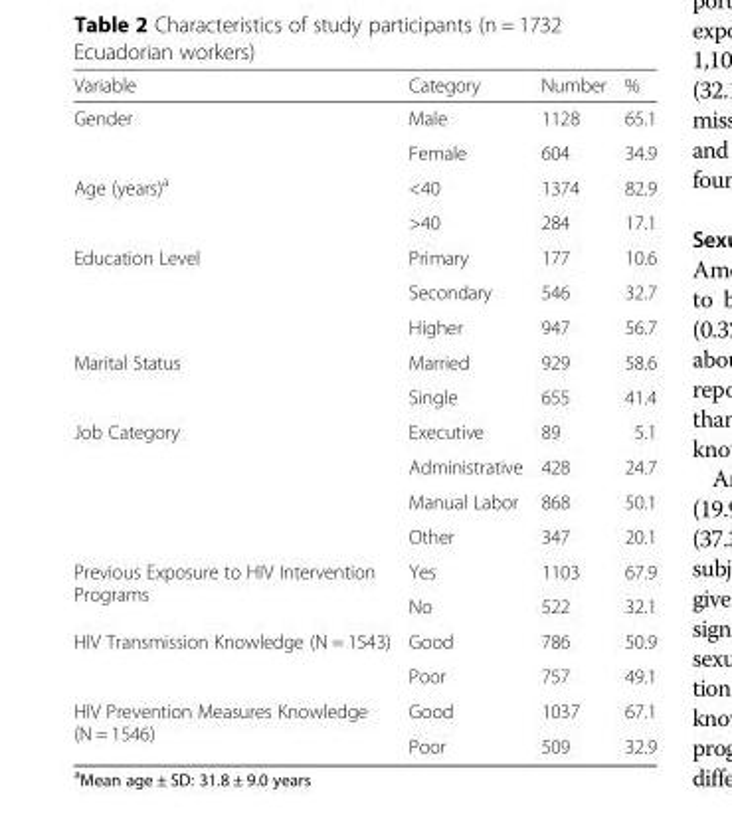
<table><thead><tr><td>Variable</td><td>Category</td><td>Number</td><td>%</td></tr></thead><tbody><tr><td rowspan="2">Gender</td><td>Male</td><td>1128</td><td>65.1</td></tr><tr><td>Female</td><td>604</td><td>34.9</td></tr><tr><td rowspan="2">Age (years)<sup>a</sup></td><td>&lt;40</td><td>1374</td><td>82.9</td></tr><tr><td>&gt;40</td><td>284</td><td>17.1</td></tr><tr><td rowspan="3">Education Level</td><td>Primary</td><td>177</td><td>10.6</td></tr><tr><td>Secondary</td><td>546</td><td>32.7</td></tr><tr><td>Higher</td><td>947</td><td>56.7</td></tr><tr><td rowspan="2">Marital Status</td><td>Married</td><td>929</td><td>58.6</td></tr><tr><td>Single</td><td>655</td><td>41.4</td></tr><tr><td rowspan="4">Job Category</td><td>Executive</td><td>89</td><td>5.1</td></tr><tr><td>Administrative</td><td>428</td><td>24.7</td></tr><tr><td>Manual Labor</td><td>868</td><td>50.1</td></tr><tr><td>Other</td><td>347</td><td>20.1</td></tr><tr><td rowspan="2">Previous Exposure to HIV Intervention Programs</td><td>Yes</td><td>1103</td><td>67.9</td></tr><tr><td>No</td><td>522</td><td>32.1</td></tr><tr><td rowspan="2">HIV Transmission Knowledge (N = 1543)</td><td>Good</td><td>786</td><td>50.9</td></tr><tr><td>Poor</td><td>757</td><td>49.1</td></tr><tr><td rowspan="2">HIV Prevention Measures Knowledge (N = 1546)</td><td>Good</td><td>1037</td><td>67.1</td></tr><tr><td>Poor</td><td>509</td><td>32.9</td></tr></tbody></table>